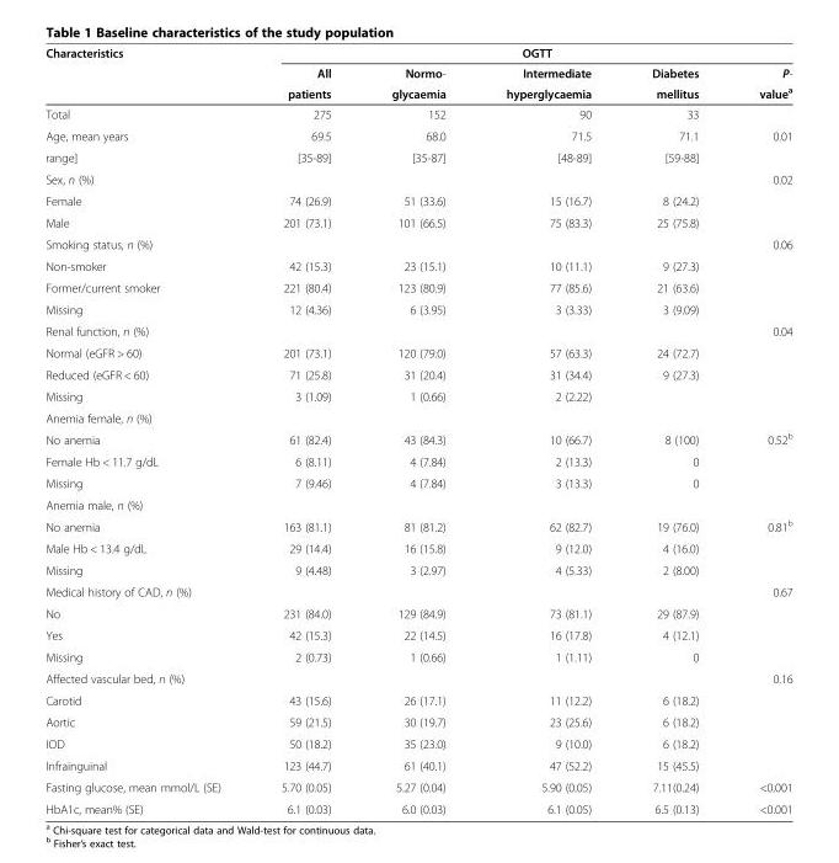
<table><thead><tr><td rowspan="3">Characteristics</td><td colspan="5">OGTT</td></tr><tr><td rowspan="2">All patients</td><td rowspan="2">Normo- glycaemia</td><td rowspan="2">Intermediate hyperglycaemia</td><td rowspan="2">Diabetes mellitus</td><td rowspan="2">P- value<sup>a</sup></td></tr><tr></tr></thead><tbody><tr><td>Total</td><td>275</td><td>152</td><td>90</td><td>33</td><td></td></tr><tr><td>Age, mean years</td><td>69.5</td><td>68.0</td><td>71.5</td><td>71.1</td><td>0.01</td></tr><tr><td>range]</td><td>[35-89]</td><td>[35-87]</td><td>[48-89]</td><td>[59-88]</td><td></td></tr><tr><td>Sex, n (%)</td><td></td><td></td><td></td><td></td><td>0.02</td></tr><tr><td>Female</td><td>74 (26.9)</td><td>51 (33.6)</td><td>15 (16.7)</td><td>8 (24.2)</td><td></td></tr><tr><td>Male</td><td>201 (73.1)</td><td>101 (66.5)</td><td>75 (83.3)</td><td>25 (75.8)</td><td></td></tr><tr><td>Smoking status, n (%)</td><td></td><td></td><td></td><td></td><td>0.06</td></tr><tr><td>Non-smoker</td><td>42 (15.3)</td><td>23 (15.1)</td><td>10 (11.1)</td><td>9 (27.3)</td><td></td></tr><tr><td>Former/current smoker</td><td>221 (80.4)</td><td>123 (80.9)</td><td>77 (85.6)</td><td>21 (63.6)</td><td></td></tr><tr><td>Missing</td><td>12 (4.36)</td><td>6 (3.95)</td><td>3 (3.33)</td><td>3 (9.09)</td><td></td></tr><tr><td>Renal function, n (%)</td><td></td><td></td><td></td><td></td><td>0.04</td></tr><tr><td>Normal (eGFR &gt; 60)</td><td>201 (73.1)</td><td>120 (79.0)</td><td>57 (63.3)</td><td>24 (72.7)</td><td></td></tr><tr><td>Reduced (eGFR &lt; 60)</td><td>71 (25.8)</td><td>31 (20.4)</td><td>31 (34.4)</td><td>9 (27.3)</td><td></td></tr><tr><td>Missing</td><td>3 (1.09)</td><td>1 (0.66)</td><td>2 (2.22)</td><td></td><td></td></tr><tr><td colspan="6">Anemia female, n (%)</td></tr><tr><td>No anemia</td><td>61 (82.4)</td><td>43 (84.3)</td><td>10 (66.7)</td><td>8 (100)</td><td>0.52<sup>b</sup></td></tr><tr><td>Female Hb &lt; 11.7 g/dL</td><td>6 (8.11)</td><td>4 (7.84)</td><td>2 (13.3)</td><td>0</td><td></td></tr><tr><td>Missing</td><td>7 (9.46)</td><td>4 (7.84)</td><td>3 (13.3)</td><td>0</td><td></td></tr><tr><td colspan="6">Anemia male, n (%)</td></tr><tr><td>No anemia</td><td>163 (81.1)</td><td>81 (81.2)</td><td>62 (82.7)</td><td>19 (76.0)</td><td>0.81<sup>b</sup></td></tr><tr><td>Male Hb &lt; 13.4 g/dL</td><td>29 (14.4)</td><td>16 (15.8)</td><td>9 (12.0)</td><td>4 (16.0)</td><td></td></tr><tr><td>Missing</td><td>9 (4.48)</td><td>3 (2.97)</td><td>4 (5.33)</td><td>2 (8.00)</td><td></td></tr><tr><td>Medical history of CAD, n (%)</td><td></td><td></td><td></td><td></td><td>0.67</td></tr><tr><td>No</td><td>231 (84.0)</td><td>129 (84.9)</td><td>73 (81.1)</td><td>29 (87.9)</td><td></td></tr><tr><td>Yes</td><td>42 (15.3)</td><td>22 (14.5)</td><td>16 (17.8)</td><td>4 (12.1)</td><td></td></tr><tr><td>Missing</td><td>2 (0.73)</td><td>1 (0.66)</td><td>1 (1.11)</td><td>0</td><td></td></tr><tr><td>Affected vascular bed, n (%)</td><td></td><td></td><td></td><td></td><td>0.16</td></tr><tr><td>Carotid</td><td>43 (15.6)</td><td>26 (17.1)</td><td>11 (12.2)</td><td>6 (18.2)</td><td></td></tr><tr><td>Aortic</td><td>59 (21.5)</td><td>30 (19.7)</td><td>23 (25.6)</td><td>6 (18.2)</td><td></td></tr><tr><td>IOD</td><td>50 (18.2)</td><td>35 (23.0)</td><td>9 (10.0)</td><td>6 (18.2)</td><td></td></tr><tr><td>Infrainguinal</td><td>123 (44.7)</td><td>61 (40.1)</td><td>47 (52.2)</td><td>15 (45.5)</td><td></td></tr><tr><td>Fasting glucose, mean mmol/L (SE)</td><td>5.70 (0.05)</td><td>5.27 (0.04)</td><td>5.90 (0.05)</td><td>7.11(0.24)</td><td>&lt;0.001</td></tr><tr><td>HbA1c, mean% (SE)</td><td>6.1 (0.03)</td><td>6.0 (0.03)</td><td>6.1 (0.05)</td><td>6.5 (0.13)</td><td>&lt;0.001</td></tr></tbody></table>